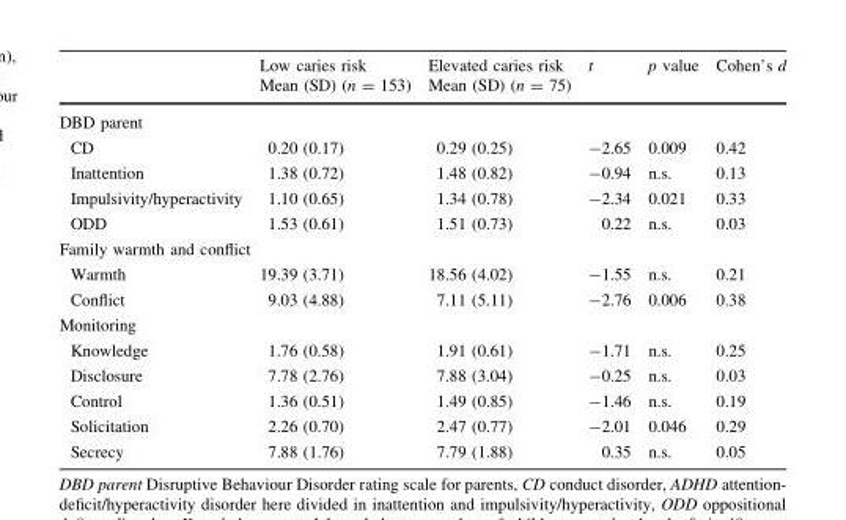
<table><thead><tr><td rowspan="2"></td><td rowspan="2">Low caries risk Mean (SD) (n = 153)</td><td rowspan="2">Elevated caries risk Mean (SD) (n = 75)</td><td rowspan="2">t</td><td rowspan="2">p value</td><td rowspan="2">Cohen’s d</td></tr><tr></tr></thead><tbody><tr><td colspan="6">DBD parent</td></tr><tr><td>CD</td><td>0.20 (0.17)</td><td>0.29 (0.25)</td><td>-2.65</td><td>0.009</td><td>0.42</td></tr><tr><td>Inattention</td><td>1.38 (0.72)</td><td>1.48 (0.82)</td><td>-0.94</td><td>n.s.</td><td>0.13</td></tr><tr><td>Impulsivity/hyperactivity</td><td>1.10 (0.65)</td><td>1.34 (0.78)</td><td>-2.34</td><td>0.021</td><td>0.33</td></tr><tr><td>ODD</td><td>1.53 (0.61)</td><td>1.51 (0.73)</td><td>0.22</td><td>n.s.</td><td>0.03</td></tr><tr><td colspan="6">Family warmth and conflict</td></tr><tr><td>Warmth</td><td>19.39 (3.71)</td><td>18.56 (4.02)</td><td>-1.55</td><td>n.s.</td><td>0.21</td></tr><tr><td>Conflict</td><td>9.03 (4.88)</td><td>7.11 (5.11)</td><td>-2.76</td><td>0.006</td><td>0.38</td></tr><tr><td colspan="6">Monitoring</td></tr><tr><td>Knowledge</td><td>1.76 (0.58)</td><td>1.91 (0.61)</td><td>-1.71</td><td>n.s.</td><td>0.25</td></tr><tr><td>Disclosure</td><td>7.78 (2.76)</td><td>7.88 (3.04)</td><td>-0.25</td><td>n.s.</td><td>0.03</td></tr><tr><td>Control</td><td>1.36 (0.51)</td><td>1.49 (0.85)</td><td>-1.46</td><td>n.s.</td><td>0.19</td></tr><tr><td>Solicitation</td><td>2.26 (0.70)</td><td>2.47 (0.77)</td><td>-2.01</td><td>0.046</td><td>0.29</td></tr><tr><td>Secrecy</td><td>7.88 (1.76)</td><td>7.79 (1.88)</td><td>0.35</td><td>n.s.</td><td>0.05</td></tr></tbody></table>